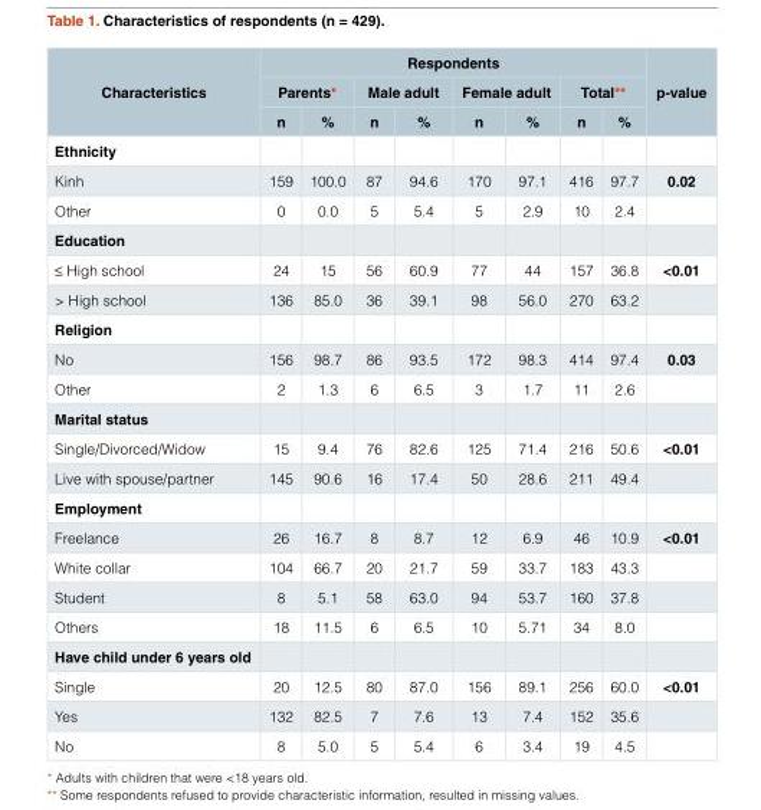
<table><thead><tr><td rowspan="3">Characteristics</td><td colspan="8">Respondents</td><td rowspan="3">p-value</td></tr><tr><td colspan="2">Parents*</td><td colspan="2">Male adult</td><td colspan="2">Female adult</td><td colspan="2">Total**</td></tr><tr><td>n</td><td>%</td><td>n</td><td>%</td><td>n</td><td>%</td><td>n</td><td>%</td></tr></thead><tbody><tr><td colspan="10">Ethnicity</td></tr><tr><td>Kinh</td><td>159</td><td>100.0</td><td>87</td><td>94.6</td><td>170</td><td>97.1</td><td>416</td><td>97.7</td><td>0.02</td></tr><tr><td>Other</td><td>0</td><td>0.0</td><td>5</td><td>5.4</td><td>5</td><td>2.9</td><td>10</td><td>2.4</td><td></td></tr><tr><td colspan="10">Education</td></tr><tr><td>≤ High school</td><td>24</td><td>15</td><td>56</td><td>60.9</td><td>77</td><td>44</td><td>157</td><td>36.8</td><td>&lt;0.01</td></tr><tr><td>&gt; High school</td><td>136</td><td>85.0</td><td>36</td><td>39.1</td><td>98</td><td>56.0</td><td>270</td><td>63.2</td><td></td></tr><tr><td colspan="10">Religion</td></tr><tr><td>No</td><td>156</td><td>98.7</td><td>86</td><td>93.5</td><td>172</td><td>98.3</td><td>414</td><td>97.4</td><td>0.03</td></tr><tr><td>Other</td><td>2</td><td>1.3</td><td>6</td><td>6.5</td><td>3</td><td>1.7</td><td>11</td><td>2.6</td><td></td></tr><tr><td colspan="10">Marital status</td></tr><tr><td>Single/Divorced/Widow</td><td>15</td><td>9.4</td><td>76</td><td>82.6</td><td>125</td><td>71.4</td><td>216</td><td>50.6</td><td>&lt;0.01</td></tr><tr><td>Live with spouse/partner</td><td>145</td><td>90.6</td><td>16</td><td>17.4</td><td>50</td><td>28.6</td><td>211</td><td>49.4</td><td></td></tr><tr><td colspan="10">Employment</td></tr><tr><td>Freelance</td><td>26</td><td>16.7</td><td>8</td><td>8.7</td><td>12</td><td>6.9</td><td>46</td><td>10.9</td><td>&lt;0.01</td></tr><tr><td>White collar</td><td>104</td><td>66.7</td><td>20</td><td>21.7</td><td>59</td><td>33.7</td><td>183</td><td>43.3</td><td></td></tr><tr><td>Student</td><td>8</td><td>5.1</td><td>58</td><td>63.0</td><td>94</td><td>53.7</td><td>160</td><td>37.8</td><td></td></tr><tr><td>Others</td><td>18</td><td>11.5</td><td>6</td><td>6.5</td><td>10</td><td>5.71</td><td>34</td><td>8.0</td><td></td></tr><tr><td colspan="10">Have child under 6 years old</td></tr><tr><td>Single</td><td>20</td><td>12.5</td><td>80</td><td>87.0</td><td>156</td><td>89.1</td><td>256</td><td>60.0</td><td>&lt;0.01</td></tr><tr><td>Yes</td><td>132</td><td>82.5</td><td>7</td><td>7.6</td><td>13</td><td>7.4</td><td>152</td><td>35.6</td><td></td></tr><tr><td>No</td><td>8</td><td>5.0</td><td>5</td><td>5.4</td><td>6</td><td>3.4</td><td>19</td><td>4.5</td><td></td></tr></tbody></table>